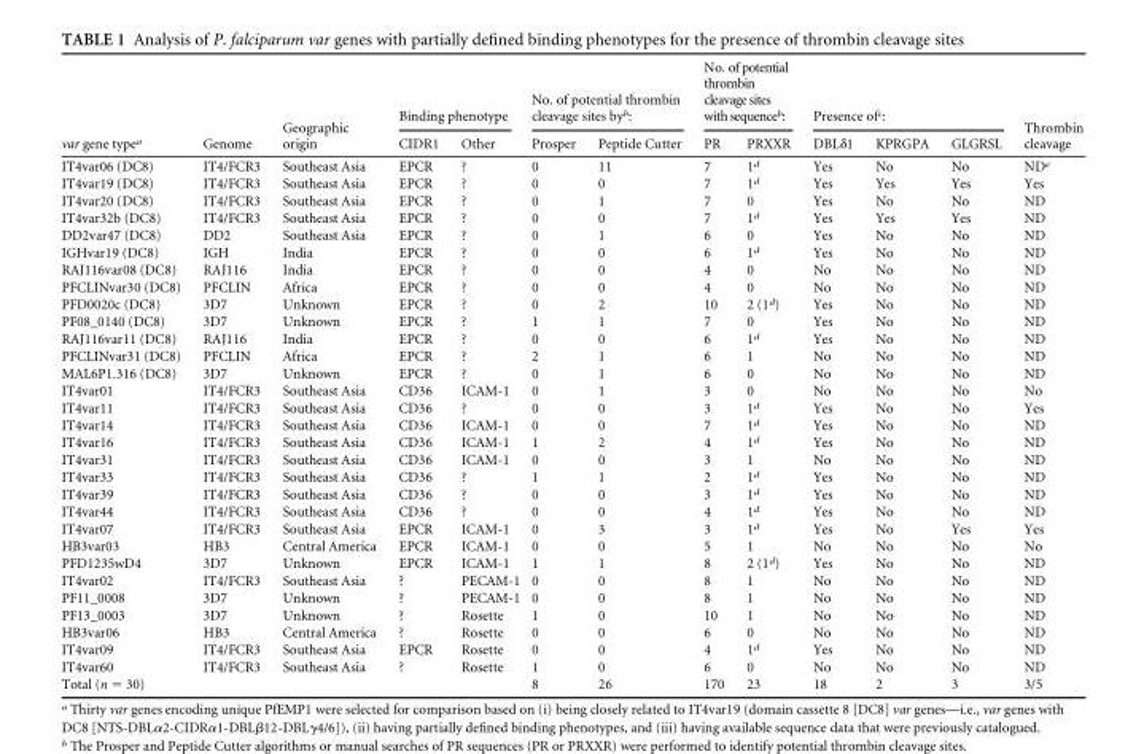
<table><thead><tr><td rowspan="2">var gene type<sup>a</sup></td><td rowspan="2">Genome</td><td rowspan="2">Geographic origin</td><td colspan="2">Binding phenotype</td><td colspan="2">No. of potential thrombin cleavage sites by<sup>b</sup>:</td><td colspan="2">No. of potential thrombin cleavage sites with sequence<sup>b</sup>:</td><td colspan="3">Presence of<sup>c</sup>:</td><td rowspan="2">Thrombin cleavage</td></tr><tr><td>CIDR1</td><td>Other</td><td>Prosper</td><td>Peptide Cutter</td><td>PR</td><td>PRXXR</td><td>DBLδ1</td><td>KPRGPA</td><td>GLGRSL</td></tr></thead><tbody><tr><td>IT4var06 (DC8)</td><td>IT4/FCR3</td><td>Southeast Asia</td><td>EPCR</td><td>?</td><td>0</td><td>11</td><td>7</td><td>1<sup>d</sup></td><td>Yes</td><td>No</td><td>No</td><td>ND<sup>e</sup></td></tr><tr><td>IT4var19 (DC8)</td><td>IT4/FCR3</td><td>Southeast Asia</td><td>EPCR</td><td>?</td><td>0</td><td>0</td><td>7</td><td>1<sup>d</sup></td><td>Yes</td><td>Yes</td><td>Yes</td><td>Yes</td></tr><tr><td>IT4var20 (DC8)</td><td>IT4/FCR3</td><td>Southeast Asia</td><td>EPCR</td><td>?</td><td>0</td><td>1</td><td>7</td><td>0</td><td>Yes</td><td>No</td><td>No</td><td>ND</td></tr><tr><td>IT4var32b (DC8)</td><td>IT4/FCR3</td><td>Southeast Asia</td><td>EPCR</td><td>?</td><td>0</td><td>0</td><td>7</td><td>1<sup>d</sup></td><td>Yes</td><td>Yes</td><td>Yes</td><td>ND</td></tr><tr><td>DD2var47 (DC8)</td><td>DD2</td><td>Southeast Asia</td><td>EPCR</td><td>?</td><td>0</td><td>1</td><td>6</td><td>0</td><td>Yes</td><td>No</td><td>No</td><td>ND</td></tr><tr><td>IGHvar19 (DC8)</td><td>IGH</td><td>India</td><td>EPCR</td><td>?</td><td>0</td><td>0</td><td>6</td><td>1<sup>d</sup></td><td>Yes</td><td>No</td><td>No</td><td>ND</td></tr><tr><td>RAJ116var08 (DC8)</td><td>RAJ116</td><td>India</td><td>EPCR</td><td>?</td><td>0</td><td>0</td><td>4</td><td>0</td><td>No</td><td>No</td><td>No</td><td>ND</td></tr><tr><td>PFCLINvar30 (DC8)</td><td>PFCLIN</td><td>Africa</td><td>EPCR</td><td>?</td><td>0</td><td>0</td><td>4</td><td>0</td><td>No</td><td>No</td><td>No</td><td>ND</td></tr><tr><td>PFD0020c (DC8)</td><td>3D7</td><td>Unknown</td><td>EPCR</td><td>?</td><td>0</td><td>2</td><td>10</td><td>2 (1<sup>d</sup>)</td><td>Yes</td><td>No</td><td>No</td><td>ND</td></tr><tr><td>PF08_0140 (DC8)</td><td>3D7</td><td>Unknown</td><td>EPCR</td><td>?</td><td>1</td><td>1</td><td>7</td><td>0</td><td>Yes</td><td>No</td><td>No</td><td>ND</td></tr><tr><td>RAJ116var11 (DC8)</td><td>RAJ116</td><td>India</td><td>EPCR</td><td>?</td><td>0</td><td>0</td><td>6</td><td>1<sup>d</sup></td><td>Yes</td><td>No</td><td>No</td><td>ND</td></tr><tr><td>PFCLINvar31 (DC8)</td><td>PFCLIN</td><td>Africa</td><td>EPCR</td><td>?</td><td>2</td><td>1</td><td>6</td><td>1</td><td>No</td><td>No</td><td>No</td><td>ND</td></tr><tr><td>MAL6P1.316 (DC8)</td><td>3D7</td><td>Unknown</td><td>EPCR</td><td>?</td><td>0</td><td>1</td><td>6</td><td>0</td><td>No</td><td>No</td><td>No</td><td>ND</td></tr><tr><td>IT4var01</td><td>IT4/FCR3</td><td>Southeast Asia</td><td>CD36</td><td>ICAM-1</td><td>0</td><td>1</td><td>3</td><td>0</td><td>No</td><td>No</td><td>No</td><td>No</td></tr><tr><td>IT4var11</td><td>IT4/FCR3</td><td>Southeast Asia</td><td>CD36</td><td>?</td><td>0</td><td>0</td><td>3</td><td>1<sup>d</sup></td><td>Yes</td><td>No</td><td>No</td><td>Yes</td></tr><tr><td>IT4var14</td><td>IT4/FCR3</td><td>Southeast Asia</td><td>CD36</td><td>ICAM-1</td><td>0</td><td>0</td><td>7</td><td>1<sup>d</sup></td><td>Yes</td><td>No</td><td>No</td><td>ND</td></tr><tr><td>IT4var16</td><td>IT4/FCR3</td><td>Southeast Asia</td><td>CD36</td><td>ICAM-1</td><td>1</td><td>2</td><td>4</td><td>1<sup>d</sup></td><td>Yes</td><td>No</td><td>No</td><td>ND</td></tr><tr><td>IT4var31</td><td>IT4/FCR3</td><td>Southeast Asia</td><td>CD36</td><td>ICAM-1</td><td>0</td><td>0</td><td>3</td><td>1</td><td>No</td><td>No</td><td>No</td><td>ND</td></tr><tr><td>IT4var33</td><td>IT4/FCR3</td><td>Southeast Asia</td><td>CD36</td><td>?</td><td>1</td><td>1</td><td>2</td><td>1<sup>d</sup></td><td>Yes</td><td>No</td><td>No</td><td>ND</td></tr><tr><td>IT4var39</td><td>IT4/FCR3</td><td>Southeast Asia</td><td>CD36</td><td>?</td><td>0</td><td>0</td><td>3</td><td>1<sup>d</sup></td><td>Yes</td><td>No</td><td>No</td><td>ND</td></tr><tr><td>IT4var44</td><td>IT4/FCR3</td><td>Southeast Asia</td><td>CD36</td><td>?</td><td>0</td><td>0</td><td>4</td><td>1<sup>d</sup></td><td>Yes</td><td>No</td><td>No</td><td>ND</td></tr><tr><td>IT4var07</td><td>IT4/FCR3</td><td>Southeast Asia</td><td>EPCR</td><td>ICAM-1</td><td>0</td><td>3</td><td>3</td><td>1<sup>d</sup></td><td>Yes</td><td>No</td><td>Yes</td><td>Yes</td></tr><tr><td>HB3var03</td><td>HB3</td><td>Central America</td><td>EPCR</td><td>ICAM-1</td><td>0</td><td>0</td><td>5</td><td>1</td><td>No</td><td>No</td><td>No</td><td>No</td></tr><tr><td>PFD1235wD4</td><td>3D7</td><td>Unknown</td><td>EPCR</td><td>ICAM-1</td><td>1</td><td>1</td><td>8</td><td>2 (1<sup>d</sup>)</td><td>Yes</td><td>No</td><td>No</td><td>ND</td></tr><tr><td>IT4var02</td><td>IT4/FCR3</td><td>Southeast Asia</td><td>?</td><td>PECAM-1</td><td>0</td><td>0</td><td>8</td><td>1</td><td>No</td><td>No</td><td>No</td><td>ND</td></tr><tr><td>PF11_0008</td><td>3D7</td><td>Unknown</td><td>?</td><td>PECAM-1</td><td>0</td><td>0</td><td>8</td><td>1</td><td>No</td><td>No</td><td>No</td><td>ND</td></tr><tr><td>PF13_0003</td><td>3D7</td><td>Unknown</td><td>?</td><td>Rosette</td><td>1</td><td>0</td><td>10</td><td>1</td><td>No</td><td>No</td><td>No</td><td>ND</td></tr><tr><td>HB3var06</td><td>HB3</td><td>Central America</td><td>?</td><td>Rosette</td><td>0</td><td>0</td><td>6</td><td>0</td><td>No</td><td>No</td><td>No</td><td>ND</td></tr><tr><td>IT4var09</td><td>IT4/FCR3</td><td>Southeast Asia</td><td>EPCR</td><td>Rosette</td><td>0</td><td>0</td><td>4</td><td>1<sup>d</sup></td><td>Yes</td><td>No</td><td>No</td><td>ND</td></tr><tr><td>IT4var60</td><td>IT4/FCR3</td><td>Southeast Asia</td><td>?</td><td>Rosette</td><td>1</td><td>0</td><td>6</td><td>0</td><td>No</td><td>No</td><td>No</td><td>ND</td></tr><tr><td>Total (n = 30)</td><td></td><td></td><td></td><td></td><td>8</td><td>26</td><td>170</td><td>23</td><td>18</td><td>2</td><td>3</td><td>3/5</td></tr></tbody></table>